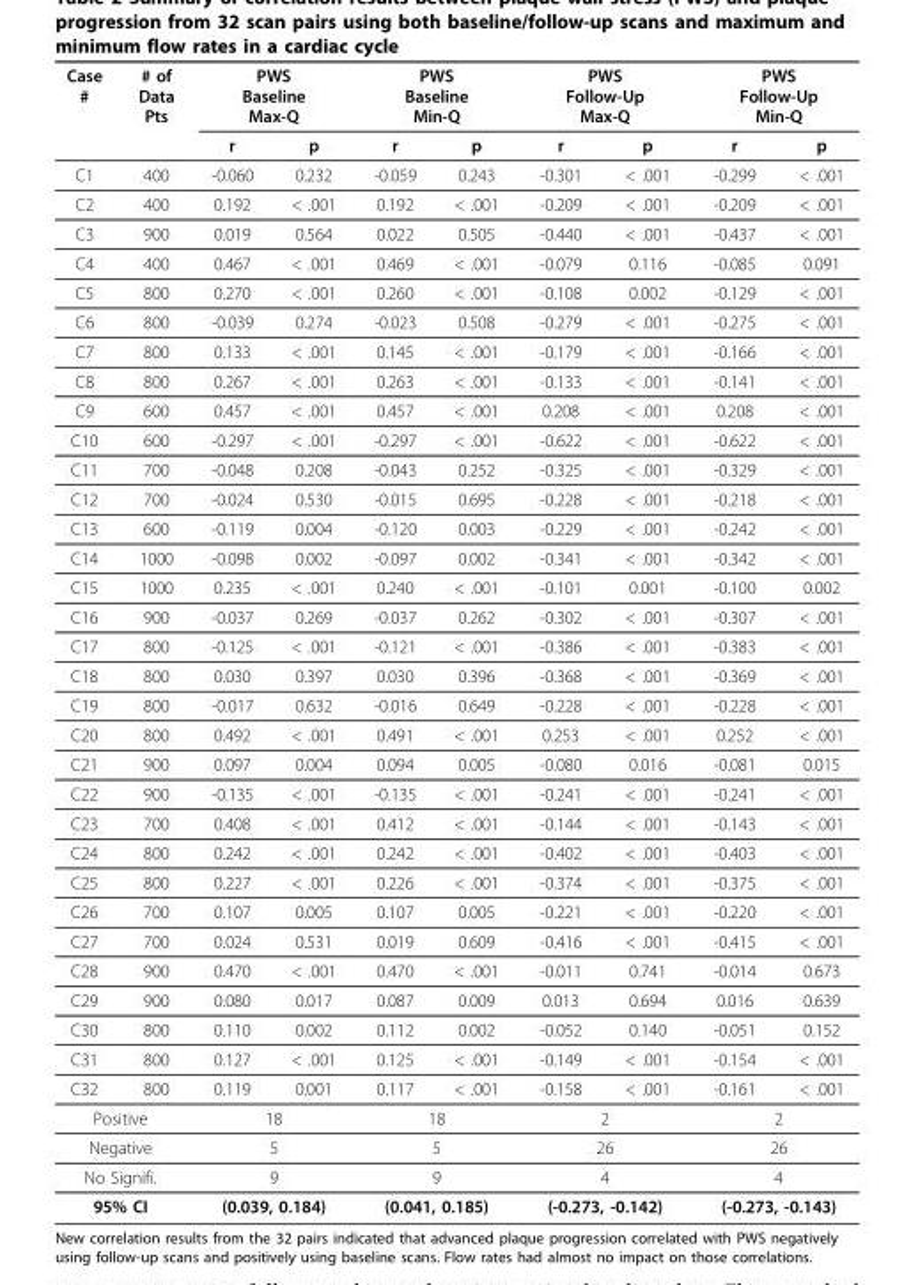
<table><thead><tr><td rowspan="2">Case #</td><td rowspan="2"># of Data Pts</td><td colspan="2">PWS Baseline Max-Q</td><td colspan="2">PWS Baseline Min-Q</td><td colspan="2">PWS Follow-Up Max-Q</td><td colspan="2">PWS Follow-Up Min-Q</td></tr><tr><td>r</td><td>p</td><td>r</td><td>p</td><td>r</td><td>p</td><td>r</td><td>p</td></tr></thead><tbody><tr><td>C1</td><td>400</td><td>-0.060</td><td>0.232</td><td>-0.059</td><td>0.243</td><td>-0.301</td><td>&lt; .001</td><td>-0.299</td><td>&lt; .001</td></tr><tr><td>C2</td><td>400</td><td>0.192</td><td>&lt; .001</td><td>0.192</td><td>&lt; .001</td><td>-0.209</td><td>&lt; .001</td><td>-0.209</td><td>&lt; .001</td></tr><tr><td>C3</td><td>900</td><td>0.019</td><td>0.564</td><td>0.022</td><td>0.505</td><td>-0.440</td><td>&lt; .001</td><td>-0.437</td><td>&lt; .001</td></tr><tr><td>C4</td><td>400</td><td>0.467</td><td>&lt; .001</td><td>0.469</td><td>&lt; .001</td><td>-0.079</td><td>0.116</td><td>-0.085</td><td>0.091</td></tr><tr><td>C5</td><td>800</td><td>0.270</td><td>&lt; .001</td><td>0.260</td><td>&lt; .001</td><td>-0.108</td><td>0.002</td><td>-0.129</td><td>&lt; .001</td></tr><tr><td>C6</td><td>800</td><td>-0.039</td><td>0.274</td><td>-0.023</td><td>0.508</td><td>-0.279</td><td>&lt; .001</td><td>-0.275</td><td>&lt; .001</td></tr><tr><td>C7</td><td>800</td><td>0.133</td><td>&lt; .001</td><td>0.145</td><td>&lt; .001</td><td>-0.179</td><td>&lt; .001</td><td>-0.166</td><td>&lt; .001</td></tr><tr><td>C8</td><td>800</td><td>0.267</td><td>&lt; .001</td><td>0.263</td><td>&lt; .001</td><td>-0.133</td><td>&lt; .001</td><td>-0.141</td><td>&lt; .001</td></tr><tr><td>C9</td><td>600</td><td>0.457</td><td>&lt; .001</td><td>0.457</td><td>&lt; .001</td><td>0.208</td><td>&lt; .001</td><td>0.208</td><td>&lt; .001</td></tr><tr><td>C10</td><td>600</td><td>-0.297</td><td>&lt; .001</td><td>-0.297</td><td>&lt; .001</td><td>-0.622</td><td>&lt; .001</td><td>-0.622</td><td>&lt; .001</td></tr><tr><td>C11</td><td>700</td><td>-0.048</td><td>0.208</td><td>-0.043</td><td>0.252</td><td>-0.325</td><td>&lt; .001</td><td>-0.329</td><td>&lt; .001</td></tr><tr><td>C12</td><td>700</td><td>-0.024</td><td>0.530</td><td>-0.015</td><td>0.695</td><td>-0.228</td><td>&lt; .001</td><td>-0.218</td><td>&lt; .001</td></tr><tr><td>C13</td><td>600</td><td>-0.119</td><td>0.004</td><td>-0.120</td><td>0.003</td><td>-0.229</td><td>&lt; .001</td><td>-0.242</td><td>&lt; .001</td></tr><tr><td>C14</td><td>1000</td><td>-0.098</td><td>0.002</td><td>-0.097</td><td>0.002</td><td>-0.341</td><td>&lt; .001</td><td>-0.342</td><td>&lt; .001</td></tr><tr><td>C15</td><td>1000</td><td>0.235</td><td>&lt; .001</td><td>0.240</td><td>&lt; .001</td><td>-0.101</td><td>0.001</td><td>-0.100</td><td>0.002</td></tr><tr><td>C16</td><td>900</td><td>-0.037</td><td>0.269</td><td>-0.037</td><td>0.262</td><td>-0.302</td><td>&lt; .001</td><td>-0.307</td><td>&lt; .001</td></tr><tr><td>C17</td><td>800</td><td>-0.125</td><td>&lt; .001</td><td>-0.121</td><td>&lt; .001</td><td>-0.386</td><td>&lt; .001</td><td>-0.383</td><td>&lt; .001</td></tr><tr><td>C18</td><td>800</td><td>0.030</td><td>0.397</td><td>0.030</td><td>0.396</td><td>-0.368</td><td>&lt; .001</td><td>-0.369</td><td>&lt; .001</td></tr><tr><td>C19</td><td>800</td><td>-0.017</td><td>0.632</td><td>-0.016</td><td>0.649</td><td>-0.228</td><td>&lt; .001</td><td>-0.228</td><td>&lt; .001</td></tr><tr><td>C20</td><td>800</td><td>0.492</td><td>&lt; .001</td><td>0.491</td><td>&lt; .001</td><td>0.253</td><td>&lt; .001</td><td>0.252</td><td>&lt; .001</td></tr><tr><td>C21</td><td>900</td><td>0.097</td><td>0.004</td><td>0.094</td><td>0.005</td><td>-0.080</td><td>0.016</td><td>-0.081</td><td>0.015</td></tr><tr><td>C22</td><td>900</td><td>-0.135</td><td>&lt; .001</td><td>-0.135</td><td>&lt; .001</td><td>-0.241</td><td>&lt; .001</td><td>-0.241</td><td>&lt; .001</td></tr><tr><td>C23</td><td>700</td><td>0.408</td><td>&lt; .001</td><td>0.412</td><td>&lt; .001</td><td>-0.144</td><td>&lt; .001</td><td>-0.143</td><td>&lt; .001</td></tr><tr><td>C24</td><td>800</td><td>0.242</td><td>&lt; .001</td><td>0.242</td><td>&lt; .001</td><td>-0.402</td><td>&lt; .001</td><td>-0.403</td><td>&lt; .001</td></tr><tr><td>C25</td><td>800</td><td>0.227</td><td>&lt; .001</td><td>0.226</td><td>&lt; .001</td><td>-0.374</td><td>&lt; .001</td><td>-0.375</td><td>&lt; .001</td></tr><tr><td>C26</td><td>700</td><td>0.107</td><td>0.005</td><td>0.107</td><td>0.005</td><td>-0.221</td><td>&lt; .001</td><td>-0.220</td><td>&lt; .001</td></tr><tr><td>C27</td><td>700</td><td>0.024</td><td>0.531</td><td>0.019</td><td>0.609</td><td>-0.416</td><td>&lt; .001</td><td>-0.415</td><td>&lt; .001</td></tr><tr><td>C28</td><td>900</td><td>0.470</td><td>&lt; .001</td><td>0.470</td><td>&lt; .001</td><td>-0.011</td><td>0.741</td><td>-0.014</td><td>0.673</td></tr><tr><td>C29</td><td>900</td><td>0.080</td><td>0.017</td><td>0.087</td><td>0.009</td><td>0.013</td><td>0.694</td><td>0.016</td><td>0.639</td></tr><tr><td>C30</td><td>800</td><td>0.110</td><td>0.002</td><td>0.112</td><td>0.002</td><td>-0.052</td><td>0.140</td><td>-0.051</td><td>0.152</td></tr><tr><td>C31</td><td>800</td><td>0.127</td><td>&lt; .001</td><td>0.125</td><td>&lt; .001</td><td>-0.149</td><td>&lt; .001</td><td>-0.154</td><td>&lt; .001</td></tr><tr><td>C32</td><td>800</td><td>0.119</td><td>0.001</td><td>0.117</td><td>&lt; .001</td><td>-0.158</td><td>&lt; .001</td><td>-0.161</td><td>&lt; .001</td></tr><tr><td colspan="2">Positive</td><td colspan="2">18</td><td colspan="2">18</td><td colspan="2">2</td><td colspan="2">2</td></tr><tr><td colspan="2">Negative</td><td colspan="2">5</td><td colspan="2">5</td><td colspan="2">26</td><td colspan="2">26</td></tr><tr><td colspan="2">No Signifi.</td><td colspan="2">9</td><td colspan="2">9</td><td colspan="2">4</td><td colspan="2">4</td></tr><tr><td colspan="2">95% CI</td><td colspan="2">(0.039, 0.184)</td><td colspan="2">(0.041, 0.185)</td><td colspan="2">(-0.273, -0.142)</td><td colspan="2">(-0.273, -0.143)</td></tr></tbody></table>